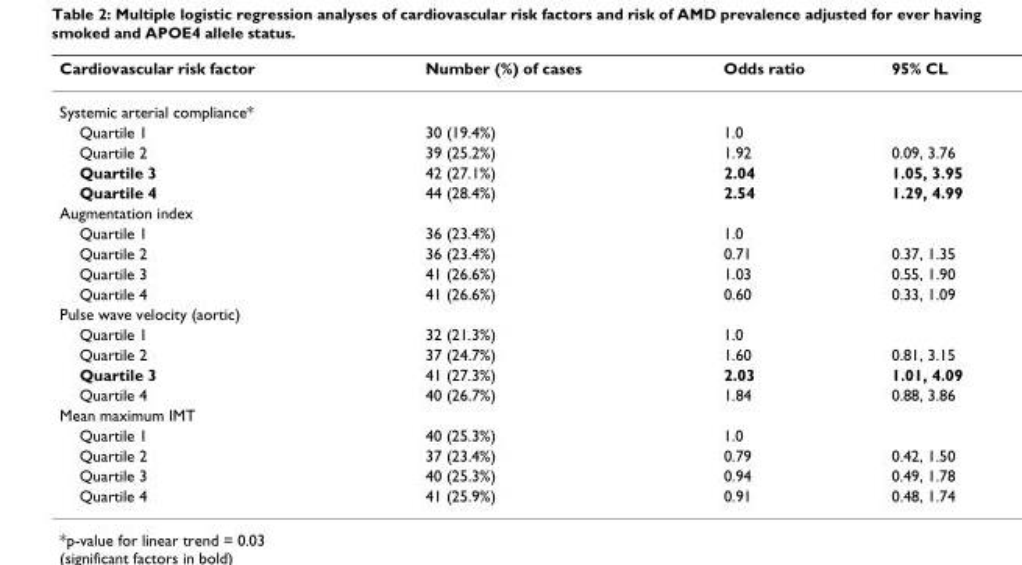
<table><thead><tr><td>Cardiovascular risk factor</td><td>Number (%) of cases</td><td>Odds ratio</td><td>95% CL</td></tr></thead><tbody><tr><td colspan="4">Systemic arterial compliance*</td></tr><tr><td>Quartile 1</td><td>30 (19.4%)</td><td>1.0</td><td></td></tr><tr><td>Quartile 2</td><td>39 (25.2%)</td><td>1.92</td><td>0.09, 3.76</td></tr><tr><td>Quartile 3</td><td>42 (27.1%)</td><td>2.04</td><td>1.05, 3.95</td></tr><tr><td>Quartile 4</td><td>44 (28.4%)</td><td>2.54</td><td>1.29, 4.99</td></tr><tr><td colspan="4">Augmentation index</td></tr><tr><td>Quartile 1</td><td>36 (23.4%)</td><td>1.0</td><td></td></tr><tr><td>Quartile 2</td><td>36 (23.4%)</td><td>0.71</td><td>0.37, 1.35</td></tr><tr><td>Quartile 3</td><td>41 (26.6%)</td><td>1.03</td><td>0.55, 1.90</td></tr><tr><td>Quartile 4</td><td>41 (26.6%)</td><td>0.60</td><td>0.33, 1.09</td></tr><tr><td colspan="4">Pulse wave velocity (aortic)</td></tr><tr><td>Quartile 1</td><td>32 (21.3%)</td><td>1.0</td><td></td></tr><tr><td>Quartile 2</td><td>37 (24.7%)</td><td>1.60</td><td>0.81, 3.15</td></tr><tr><td>Quartile 3</td><td>41 (27.3%)</td><td>2.03</td><td>1.01, 4.09</td></tr><tr><td>Quartile 4</td><td>40 (26.7%)</td><td>1.84</td><td>0.88, 3.86</td></tr><tr><td colspan="4">Mean maximum IMT</td></tr><tr><td>Quartile 1</td><td>40 (25.3%)</td><td>1.0</td><td></td></tr><tr><td>Quartile 2</td><td>37 (23.4%)</td><td>0.79</td><td>0.42, 1.50</td></tr><tr><td>Quartile 3</td><td>40 (25.3%)</td><td>0.94</td><td>0.49, 1.78</td></tr><tr><td>Quartile 4</td><td>41 (25.9%)</td><td>0.91</td><td>0.48, 1.74</td></tr></tbody></table>